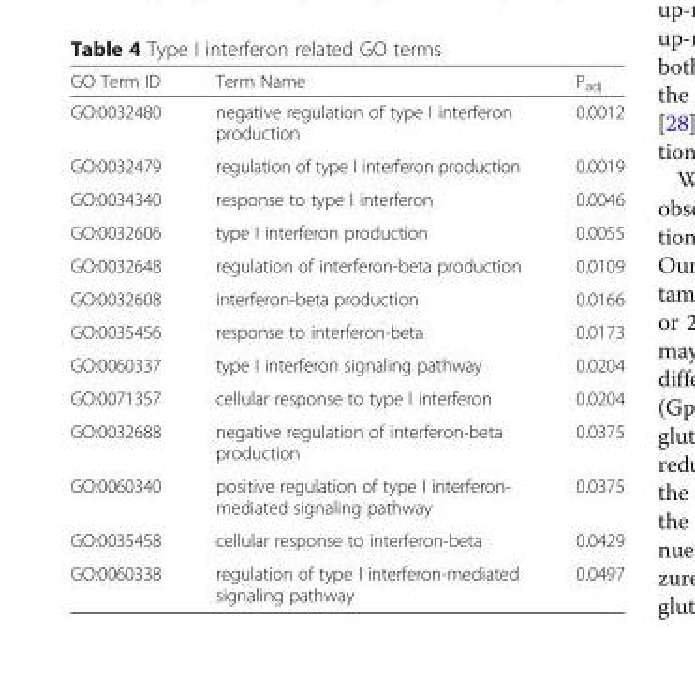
<table><thead><tr><td>GO Term ID</td><td>Term Name</td><td>P<sub>adj</sub></td></tr></thead><tbody><tr><td>GO:0032480</td><td>negative regulation of type I interferon production</td><td>0.0012</td></tr><tr><td>GO:0032479</td><td>regulation of type I interferon production</td><td>0.0019</td></tr><tr><td>GO:0034340</td><td>response to type I interferon</td><td>0.0046</td></tr><tr><td>GO:0032606</td><td>type I interferon production</td><td>0.0055</td></tr><tr><td>GO:0032648</td><td>regulation of interferon-beta production</td><td>0.0109</td></tr><tr><td>GO:0032608</td><td>interferon-beta production</td><td>0.0166</td></tr><tr><td>GO:0035456</td><td>response to interferon-beta</td><td>0.0173</td></tr><tr><td>GO:0060337</td><td>type I interferon signaling pathway</td><td>0.0204</td></tr><tr><td>GO:0071357</td><td>cellular response to type I interferon</td><td>0.0204</td></tr><tr><td>GO:0032688</td><td>negative regulation of interferon-beta production</td><td>0.0375</td></tr><tr><td>GO:0060340</td><td>positive regulation of type I interferon- mediated signaling pathway</td><td>0.0375</td></tr><tr><td>GO:0035458</td><td>cellular response to interferon-beta</td><td>0.0429</td></tr><tr><td>GO:0060338</td><td>regulation of type I interferon-mediated signaling pathway</td><td>0.0497</td></tr></tbody></table>